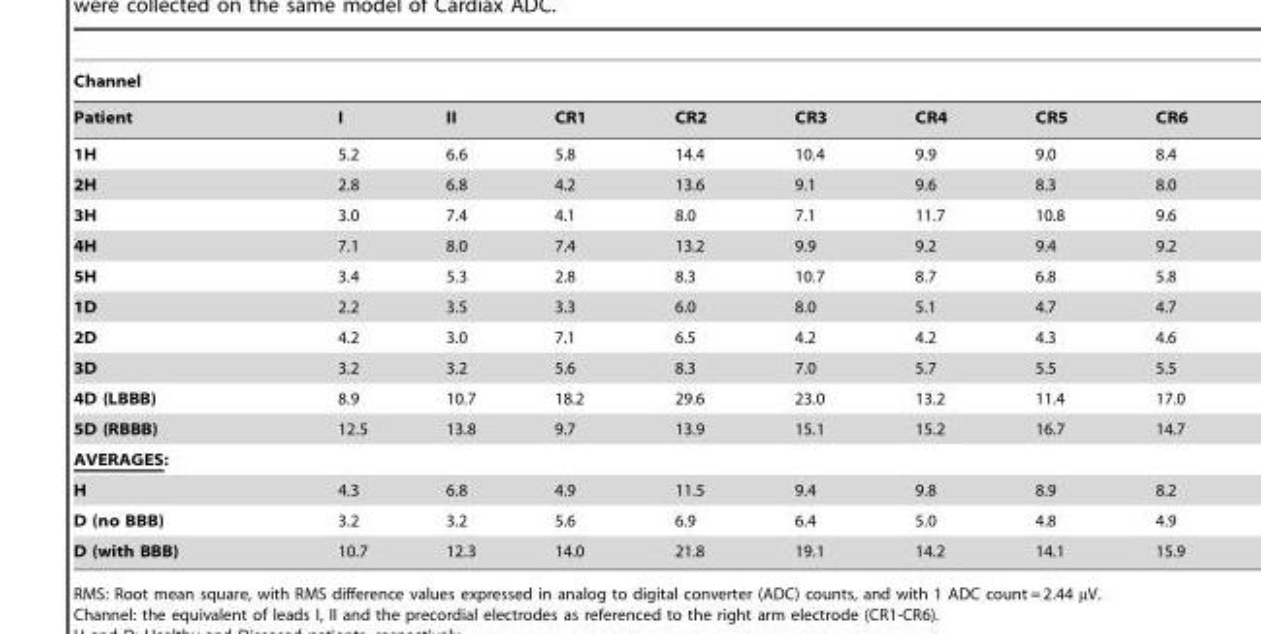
<table><thead><tr><td colspan="9">Channel</td></tr><tr><td>Patient</td><td>I</td><td>II</td><td>CR1</td><td>CR2</td><td>CR3</td><td>CR4</td><td>CR5</td><td>CR6</td></tr></thead><tbody><tr><td>1H</td><td>5.2</td><td>6.6</td><td>5.8</td><td>14.4</td><td>10.4</td><td>9.9</td><td>9.0</td><td>8.4</td></tr><tr><td>2H</td><td>2.8</td><td>6.8</td><td>4.2</td><td>13.6</td><td>9.1</td><td>9.6</td><td>8.3</td><td>8.0</td></tr><tr><td>3H</td><td>3.0</td><td>7.4</td><td>4.1</td><td>8.0</td><td>7.1</td><td>11.7</td><td>10.8</td><td>9.6</td></tr><tr><td>4H</td><td>7.1</td><td>8.0</td><td>7.4</td><td>13.2</td><td>9.9</td><td>9.2</td><td>9.4</td><td>9.2</td></tr><tr><td>5H</td><td>3.4</td><td>5.3</td><td>2.8</td><td>8.3</td><td>10.7</td><td>8.7</td><td>6.8</td><td>5.8</td></tr><tr><td>1D</td><td>2.2</td><td>3.5</td><td>3.3</td><td>6.0</td><td>8.0</td><td>5.1</td><td>4.7</td><td>4.7</td></tr><tr><td>2D</td><td>4.2</td><td>3.0</td><td>7.1</td><td>6.5</td><td>4.2</td><td>4.2</td><td>4.3</td><td>4.6</td></tr><tr><td>3D</td><td>3.2</td><td>3.2</td><td>5.6</td><td>8.3</td><td>7.0</td><td>5.7</td><td>5.5</td><td>5.5</td></tr><tr><td>4D (LBBB)</td><td>8.9</td><td>10.7</td><td>18.2</td><td>29.6</td><td>23.0</td><td>13.2</td><td>11.4</td><td>17.0</td></tr><tr><td>5D (RBBB)</td><td>12.5</td><td>13.8</td><td>9.7</td><td>13.9</td><td>15.1</td><td>15.2</td><td>16.7</td><td>14.7</td></tr><tr><td colspan="9">AVERAGES:</td></tr><tr><td>H</td><td>4.3</td><td>6.8</td><td>4.9</td><td>11.5</td><td>9.4</td><td>9.8</td><td>8.9</td><td>8.2</td></tr><tr><td>D (no BBB)</td><td>3.2</td><td>3.2</td><td>5.6</td><td>6.9</td><td>6.4</td><td>5.0</td><td>4.8</td><td>4.9</td></tr><tr><td>D (with BBB)</td><td>10.7</td><td>12.3</td><td>14.0</td><td>21.8</td><td>19.1</td><td>14.2</td><td>14.1</td><td>15.9</td></tr></tbody></table>